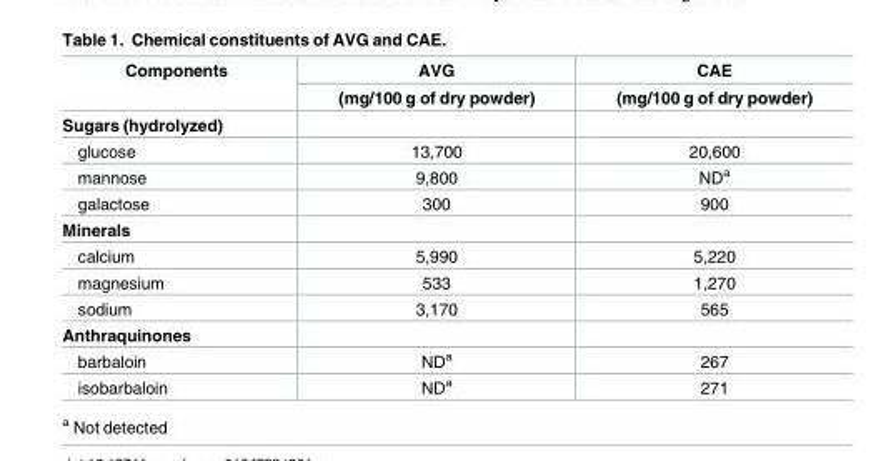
<table><thead><tr><td rowspan="2">Components</td><td rowspan="2">AVG (mg/100 g of dry powder)</td><td rowspan="2">CAE (mg/100 g of dry powder)</td></tr><tr></tr></thead><tbody><tr><td colspan="3">Sugars (hydrolyzed)</td></tr><tr><td>glucose</td><td>13,700</td><td>20,600</td></tr><tr><td>mannose</td><td>9,800</td><td>ND<sup>a</sup></td></tr><tr><td>galactose</td><td>300</td><td>900</td></tr><tr><td colspan="3">Minerals</td></tr><tr><td>calcium</td><td>5,990</td><td>5,220</td></tr><tr><td>magnesium</td><td>533</td><td>1,270</td></tr><tr><td>sodium</td><td>3,170</td><td>565</td></tr><tr><td colspan="3">Anthraquinones</td></tr><tr><td>barbaloin</td><td>ND<sup>a</sup></td><td>267</td></tr><tr><td>isobarbaloin</td><td>ND<sup>a</sup></td><td>271</td></tr></tbody></table>